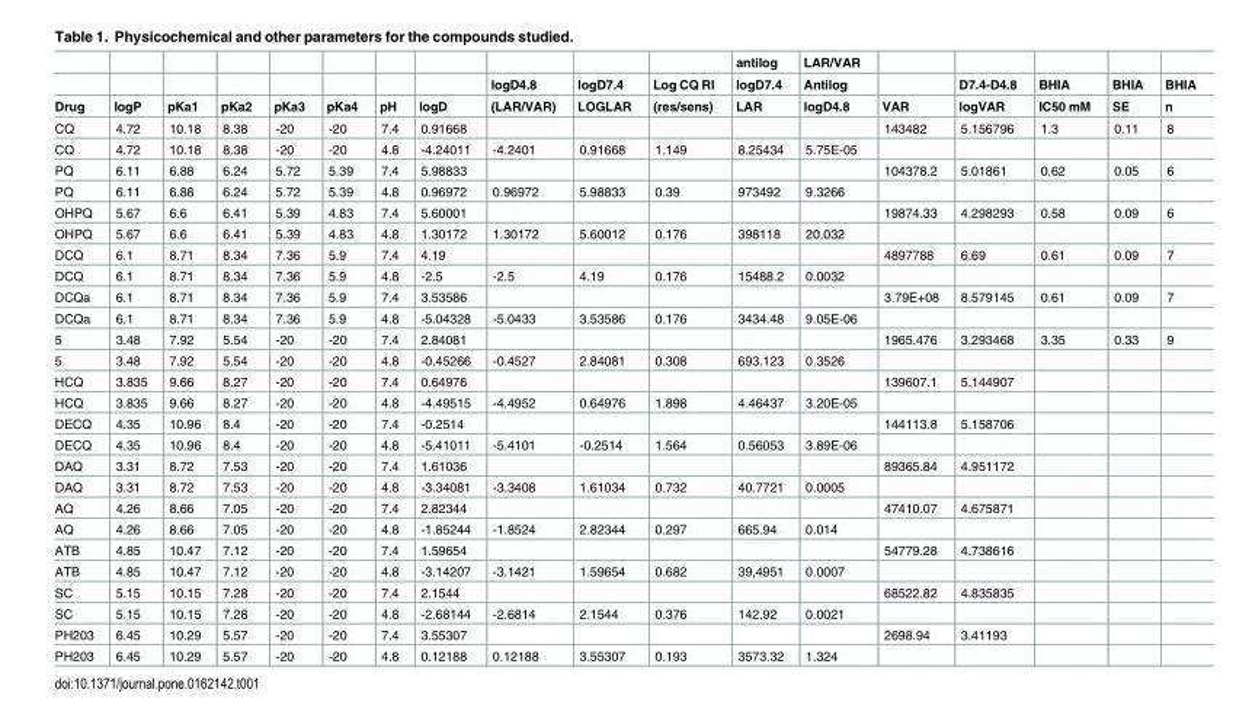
<table><thead><tr><td rowspan="3">Drug</td><td rowspan="3">logP</td><td rowspan="3">pKa1</td><td rowspan="3">pKa2</td><td rowspan="3">pKa3</td><td rowspan="3">pKa4</td><td rowspan="3">pH</td><td rowspan="3">logD</td><td rowspan="3">logD4.8 (LAR/VAR)</td><td rowspan="3">logD7.4 LOGLAR</td><td rowspan="3">Log CQ RI (res/sens)</td><td rowspan="3">antilog logD7.4 LAR</td><td rowspan="3">LAR/VAR Antilog logD4.8</td><td rowspan="3">VAR</td><td rowspan="3">D7.4-D4.8 logVAR</td><td rowspan="3">BHIA IC50 mM</td><td rowspan="3">BHIA SE</td><td rowspan="3">BHIA n</td></tr><tr></tr><tr></tr></thead><tbody><tr><td>CQ</td><td>4.72</td><td>10.18</td><td>8.38</td><td>-20</td><td>-20</td><td>7.4</td><td>0.91668</td><td></td><td></td><td></td><td></td><td></td><td>143482</td><td>5.156796</td><td>1.3</td><td>0.11</td><td>8</td></tr><tr><td>CQ</td><td>4.72</td><td>10.18</td><td>8.38</td><td>-20</td><td>-20</td><td>4.8</td><td>-4.24011</td><td>-4.2401</td><td>0.91668</td><td>1.149</td><td>8.25434</td><td>5.75E-05</td><td></td><td></td><td></td><td></td><td></td></tr><tr><td>PQ</td><td>6.11</td><td>6.88</td><td>6.24</td><td>5.72</td><td>5.39</td><td>7.4</td><td>5.98833</td><td></td><td></td><td></td><td></td><td></td><td>104378.2</td><td>5.01861</td><td>0.62</td><td>0.05</td><td>6</td></tr><tr><td>PQ</td><td>6.11</td><td>6.88</td><td>6.24</td><td>5.72</td><td>5.39</td><td>4.8</td><td>0.96972</td><td>0.96972</td><td>5.98833</td><td>0.39</td><td>973492</td><td>9.3266</td><td></td><td></td><td></td><td></td><td></td></tr><tr><td>OHPQ</td><td>5.67</td><td>6.6</td><td>6.41</td><td>5.39</td><td>4.83</td><td>7.4</td><td>5.60001</td><td></td><td></td><td></td><td></td><td></td><td>19874.33</td><td>4.298293</td><td>0.58</td><td>0.09</td><td>6</td></tr><tr><td>OHPQ</td><td>5.67</td><td>6.6</td><td>6.41</td><td>5.39</td><td>4.83</td><td>4.8</td><td>1.30172</td><td>1.30172</td><td>5.60012</td><td>0.176</td><td>398118</td><td>20.032</td><td></td><td></td><td></td><td></td><td></td></tr><tr><td>DCQ</td><td>6.1</td><td>8.71</td><td>8.34</td><td>7.36</td><td>5.9</td><td>7.4</td><td>4.19</td><td></td><td></td><td></td><td></td><td></td><td>4897788</td><td>6.69</td><td>0.61</td><td>0.09</td><td>7</td></tr><tr><td>DCQ</td><td>6.1</td><td>8.71</td><td>8.34</td><td>7.36</td><td>5.9</td><td>4.8</td><td>-2.5</td><td>-2.5</td><td>4.19</td><td>0.176</td><td>15488.2</td><td>0.0032</td><td></td><td></td><td></td><td></td><td></td></tr><tr><td>DCQa</td><td>6.1</td><td>8.71</td><td>8.34</td><td>7.36</td><td>5.9</td><td>7.4</td><td>3.53586</td><td></td><td></td><td></td><td></td><td></td><td>3.79E+08</td><td>8.579145</td><td>0.61</td><td>0.09</td><td>7</td></tr><tr><td>DCQa</td><td>6.1</td><td>8.71</td><td>8.34</td><td>7.36</td><td>5.9</td><td>4.8</td><td>-5.04328</td><td>-5.0433</td><td>3.53586</td><td>0.176</td><td>3434.48</td><td>9.05E-06</td><td></td><td></td><td></td><td></td><td></td></tr><tr><td>5</td><td>3.48</td><td>7.92</td><td>5.54</td><td>-20</td><td>-20</td><td>7.4</td><td>2.84081</td><td></td><td></td><td></td><td></td><td></td><td>1965.476</td><td>3.293468</td><td>3.35</td><td>0.33</td><td>9</td></tr><tr><td>5</td><td>3.48</td><td>7.92</td><td>5.54</td><td>-20</td><td>-20</td><td>4.8</td><td>-0.45266</td><td>-0.4527</td><td>2.84081</td><td>0.308</td><td>693.123</td><td>0.3526</td><td></td><td></td><td></td><td></td><td></td></tr><tr><td>HCQ</td><td>3.835</td><td>9.66</td><td>8.27</td><td>-20</td><td>-20</td><td>7.4</td><td>0.64976</td><td></td><td></td><td></td><td></td><td></td><td>139607.1</td><td>5.144907</td><td></td><td></td><td></td></tr><tr><td>HCQ</td><td>3.835</td><td>9.66</td><td>8.27</td><td>-20</td><td>-20</td><td>4.8</td><td>-4.49515</td><td>-4.4952</td><td>0.64976</td><td>1.898</td><td>4.46437</td><td>3.20E-05</td><td></td><td></td><td></td><td></td><td></td></tr><tr><td>DECQ</td><td>4.35</td><td>10.96</td><td>8.4</td><td>-20</td><td>-20</td><td>7.4</td><td>-0.2514</td><td></td><td></td><td></td><td></td><td></td><td>144113.8</td><td>5.158706</td><td></td><td></td><td></td></tr><tr><td>DECQ</td><td>4.35</td><td>10.96</td><td>8.4</td><td>-20</td><td>-20</td><td>4.8</td><td>-5.41011</td><td>-5.4101</td><td>-0.2514</td><td>1.564</td><td>0.56053</td><td>3.89E-06</td><td></td><td></td><td></td><td></td><td></td></tr><tr><td>DAQ</td><td>3.31</td><td>8.72</td><td>7.53</td><td>-20</td><td>-20</td><td>7.4</td><td>1.61036</td><td></td><td></td><td></td><td></td><td></td><td>89365.84</td><td>4.951172</td><td></td><td></td><td></td></tr><tr><td>DAQ</td><td>3.31</td><td>8.72</td><td>7.53</td><td>-20</td><td>-20</td><td>4.8</td><td>-3.34081</td><td>-3.3408</td><td>1.61034</td><td>0.732</td><td>40.7721</td><td>0.0005</td><td></td><td></td><td></td><td></td><td></td></tr><tr><td>AQ</td><td>4.26</td><td>8.66</td><td>7.05</td><td>-20</td><td>-20</td><td>7.4</td><td>2.82344</td><td></td><td></td><td></td><td></td><td></td><td>47410.07</td><td>4.675871</td><td></td><td></td><td></td></tr><tr><td>AQ</td><td>4.26</td><td>8.66</td><td>7.05</td><td>-20</td><td>-20</td><td>4.8</td><td>-1.85244</td><td>-1.8524</td><td>2.82344</td><td>0.297</td><td>665.94</td><td>0.014</td><td></td><td></td><td></td><td></td><td></td></tr><tr><td>ATB</td><td>4.85</td><td>10.47</td><td>7.12</td><td>-20</td><td>-20</td><td>7.4</td><td>1.59654</td><td></td><td></td><td></td><td></td><td></td><td>54779.28</td><td>4.738616</td><td></td><td></td><td></td></tr><tr><td>ATB</td><td>4.85</td><td>10.47</td><td>7.12</td><td>-20</td><td>-20</td><td>4.8</td><td>-3.14207</td><td>-3.1421</td><td>1.59654</td><td>0.682</td><td>39,4951</td><td>0.0007</td><td></td><td></td><td></td><td></td><td></td></tr><tr><td>SC</td><td>5.15</td><td>10.15</td><td>7.28</td><td>-20</td><td>-20</td><td>7.4</td><td>2.1544</td><td></td><td></td><td></td><td></td><td></td><td>68522.82</td><td>4.835835</td><td></td><td></td><td></td></tr><tr><td>SC</td><td>5.15</td><td>10.15</td><td>7.28</td><td>-20</td><td>-20</td><td>4.8</td><td>-2.68144</td><td>-2.6814</td><td>2.1544</td><td>0.376</td><td>142.92</td><td>0.0021</td><td></td><td></td><td></td><td></td><td></td></tr><tr><td>PH203</td><td>6.45</td><td>10.29</td><td>5.57</td><td>-20</td><td>-20</td><td>7.4</td><td>3.55307</td><td></td><td></td><td></td><td></td><td></td><td>2698.94</td><td>3.41193</td><td></td><td></td><td></td></tr><tr><td>PH203</td><td>6.45</td><td>10.29</td><td>5.57</td><td>-20</td><td>-20</td><td>4.8</td><td>0.12188</td><td>0.12188</td><td>3.55307</td><td>0.193</td><td>3573.32</td><td>1.324</td><td></td><td></td><td></td><td></td><td></td></tr></tbody></table>